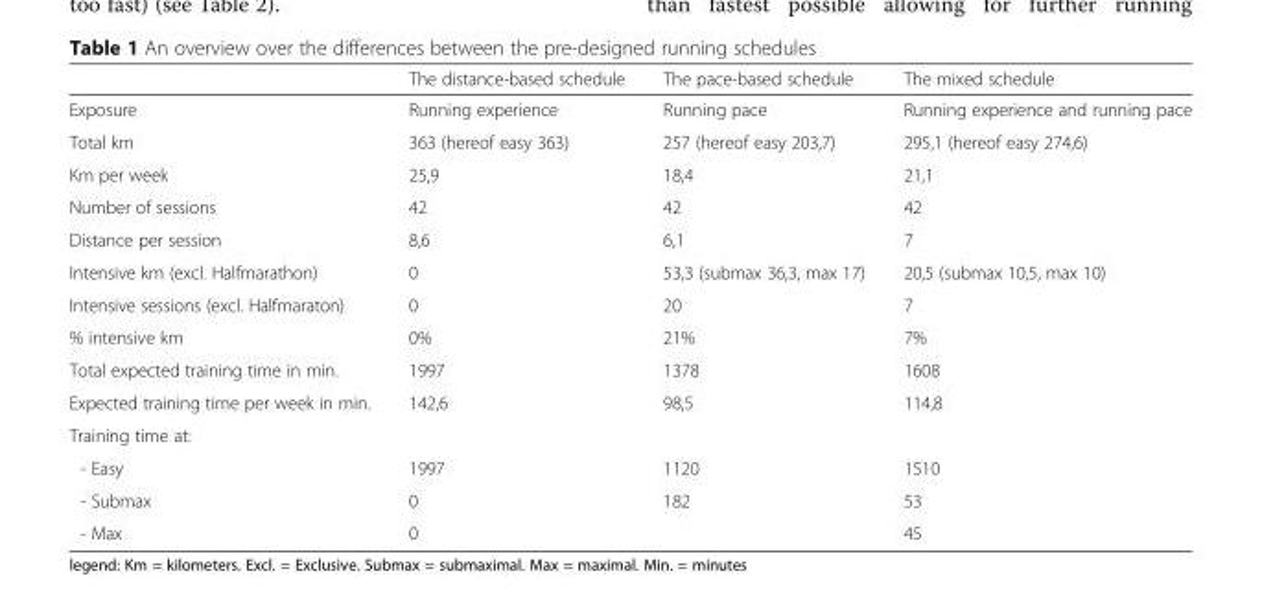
<table><thead><tr><td></td><td>The distance-based schedule</td><td>The pace-based schedule</td><td>The mixed schedule</td></tr></thead><tbody><tr><td>Exposure</td><td>Running experience</td><td>Running pace</td><td>Running experience and running pace</td></tr><tr><td>Total km</td><td>363 (hereof easy 363)</td><td>257 (hereof easy 203,7)</td><td>295,1 (hereof easy 274,6)</td></tr><tr><td>Km per week</td><td>25,9</td><td>18,4</td><td>21,1</td></tr><tr><td>Number of sessions</td><td>42</td><td>42</td><td>42</td></tr><tr><td>Distance per session</td><td>8,6</td><td>6,1</td><td>7</td></tr><tr><td>Intensive km (excl. Halfmarathon)</td><td>0</td><td>53,3 (submax 36,3, max 17)</td><td>20,5 (submax 10,5, max 10)</td></tr><tr><td>Intensive sessions (excl. Halfmaraton)</td><td>0</td><td>20</td><td>7</td></tr><tr><td>% intensive km</td><td>0%</td><td>21%</td><td>7%</td></tr><tr><td>Total expected training time in min.</td><td>1997</td><td>1378</td><td>1608</td></tr><tr><td>Expected training time per week in min.</td><td>142,6</td><td>98,5</td><td>114,8</td></tr><tr><td colspan="4">Training time at:</td></tr><tr><td>- Easy</td><td>1997</td><td>1120</td><td>1510</td></tr><tr><td>- Submax</td><td>0</td><td>182</td><td>53</td></tr><tr><td>- Max</td><td>0</td><td></td><td>45</td></tr></tbody></table>